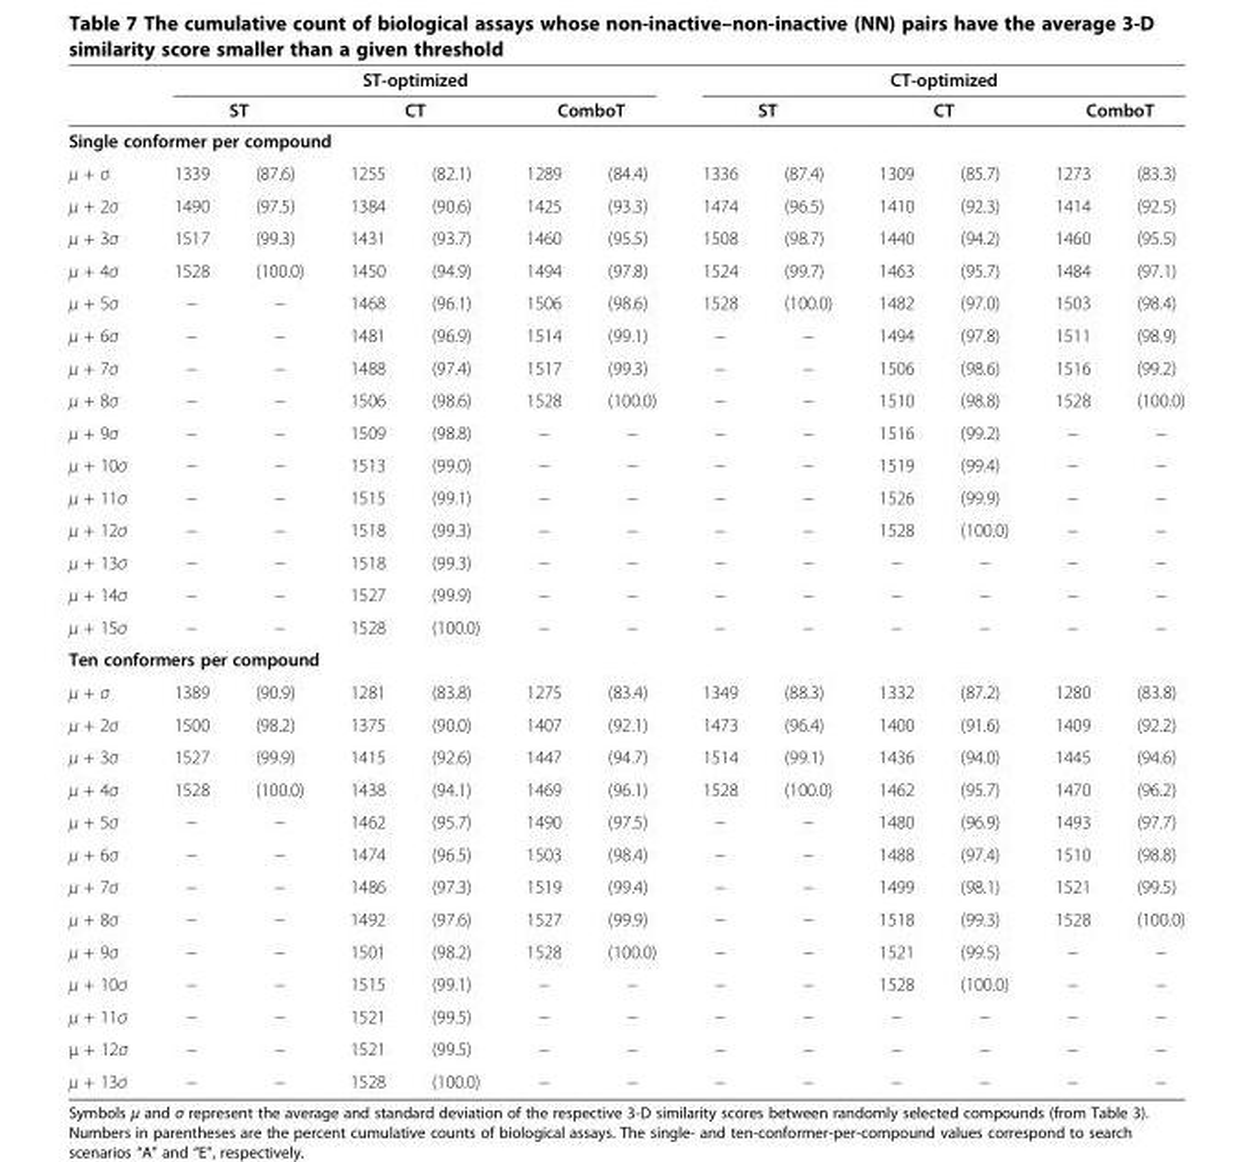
<table><thead><tr><td rowspan="2"></td><td colspan="6">ST-optimized</td><td colspan="6">CT-optimized</td></tr><tr><td colspan="2">ST</td><td colspan="2">CT</td><td colspan="2">ComboT</td><td colspan="2">ST</td><td colspan="2">CT</td><td colspan="2">ComboT</td></tr><tr><td colspan="13">Single conformer per compound</td></tr><tr><td>μ + σ</td><td>1339</td><td>(87.6)</td><td>1255</td><td>(82.1)</td><td>1289</td><td>(84.4)</td><td>1336</td><td>(87.4)</td><td>1309</td><td>(85.7)</td><td>1273</td><td>(83.3)</td></tr></thead><tbody><tr><td>μ + 2σ</td><td>1490</td><td>(97.5)</td><td>1384</td><td>(90.6)</td><td>1425</td><td>(93.3)</td><td>1474</td><td>(96.5)</td><td>1410</td><td>(92.3)</td><td>1414</td><td>(92.5)</td></tr><tr><td>μ + 3σ</td><td>1517</td><td>(99.3)</td><td>1431</td><td>(93.7)</td><td>1460</td><td>(95.5)</td><td>1508</td><td>(98.7)</td><td>1440</td><td>(94.2)</td><td>1460</td><td>(95.5)</td></tr><tr><td>μ + 4σ</td><td>1528</td><td>(100.0)</td><td>1450</td><td>(94.9)</td><td>1494</td><td>(97.8)</td><td>1524</td><td>(99.7)</td><td>1463</td><td>(95.7)</td><td>1484</td><td>(97.1)</td></tr><tr><td>μ + 5σ</td><td>−</td><td>−</td><td>1468</td><td>(96.1)</td><td>1506</td><td>(98.6)</td><td>1528</td><td>(100.0)</td><td>1482</td><td>(97.0)</td><td>1503</td><td>(98.4)</td></tr><tr><td>μ + 6σ</td><td>−</td><td>−</td><td>1481</td><td>(96.9)</td><td>1514</td><td>(99.1)</td><td>−</td><td>−</td><td>1494</td><td>(97.8)</td><td>1511</td><td>(98.9)</td></tr><tr><td>μ + 7σ</td><td>−</td><td>−</td><td>1488</td><td>(97.4)</td><td>1517</td><td>(99.3)</td><td>−</td><td>−</td><td>1506</td><td>(98.6)</td><td>1516</td><td>(99.2)</td></tr><tr><td>μ + 8σ</td><td>−</td><td>−</td><td>1506</td><td>(98.6)</td><td>1528</td><td>(100.0)</td><td>−</td><td>−</td><td>1510</td><td>(98.8)</td><td>1528</td><td>(100.0)</td></tr><tr><td>μ + 9σ</td><td>−</td><td>−</td><td>1509</td><td>(98.8)</td><td>−</td><td>−</td><td>−</td><td>−</td><td>1516</td><td>(99.2)</td><td>−</td><td>−</td></tr><tr><td>μ + 10σ</td><td>−</td><td>−</td><td>1513</td><td>(99.0)</td><td>−</td><td>−</td><td>−</td><td>−</td><td>1519</td><td>(99.4)</td><td>−</td><td>−</td></tr><tr><td>μ + 11σ</td><td>−</td><td>−</td><td>1515</td><td>(99.1)</td><td>−</td><td>−</td><td>−</td><td>−</td><td>1526</td><td>(99.9)</td><td>−</td><td>−</td></tr><tr><td>μ + 12σ</td><td>−</td><td>−</td><td>1518</td><td>(99.3)</td><td>−</td><td>−</td><td>−</td><td>−</td><td>1528</td><td>(100.0)</td><td>−</td><td>−</td></tr><tr><td>μ + 13σ</td><td>−</td><td>−</td><td>1518</td><td>(99.3)</td><td>−</td><td>−</td><td>−</td><td>−</td><td>−</td><td>−</td><td>−</td><td>−</td></tr><tr><td>μ + 14σ</td><td>−</td><td>−</td><td>1527</td><td>(99.9)</td><td>−</td><td>−</td><td>−</td><td>−</td><td>−</td><td>−</td><td>−</td><td>−</td></tr><tr><td>μ + 15σ</td><td>−</td><td>−</td><td>1528</td><td>(100.0)</td><td>−</td><td>−</td><td>−</td><td>−</td><td>−</td><td>−</td><td>−</td><td>−</td></tr><tr><td colspan="13">Ten conformers per compound</td></tr><tr><td>μ + σ</td><td>1389</td><td>(90.9)</td><td>1281</td><td>(83.8)</td><td>1275</td><td>(83.4)</td><td>1349</td><td>(88.3)</td><td>1332</td><td>(87.2)</td><td>1280</td><td>(83.8)</td></tr><tr><td>μ + 2σ</td><td>1500</td><td>(98.2)</td><td>1375</td><td>(90.0)</td><td>1407</td><td>(92.1)</td><td>1473</td><td>(96.4)</td><td>1400</td><td>(91.6)</td><td>1409</td><td>(92.2)</td></tr><tr><td>μ + 3σ</td><td>1527</td><td>(99.9)</td><td>1415</td><td>(92.6)</td><td>1447</td><td>(94.7)</td><td>1514</td><td>(99.1)</td><td>1436</td><td>(94.0)</td><td>1445</td><td>(94.6)</td></tr><tr><td>μ + 4σ</td><td>1528</td><td>(100.0)</td><td>1438</td><td>(94.1)</td><td>1469</td><td>(96.1)</td><td>1528</td><td>(100.0)</td><td>1462</td><td>(95.7)</td><td>1470</td><td>(96.2)</td></tr><tr><td>μ + 5σ</td><td>−</td><td>−</td><td>1462</td><td>(95.7)</td><td>1490</td><td>(97.5)</td><td>−</td><td>−</td><td>1480</td><td>(96.9)</td><td>1493</td><td>(97.7)</td></tr><tr><td>μ + 6σ</td><td>−</td><td>−</td><td>1474</td><td>(96.5)</td><td>1503</td><td>(98.4)</td><td>−</td><td>−</td><td>1488</td><td>(97.4)</td><td>1510</td><td>(98.8)</td></tr><tr><td>μ + 7σ</td><td>−</td><td>−</td><td>1486</td><td>(97.3)</td><td>1519</td><td>(99.4)</td><td>−</td><td>−</td><td>1499</td><td>(98.1)</td><td>1521</td><td>(99.5)</td></tr><tr><td>μ + 8σ</td><td>−</td><td>−</td><td>1492</td><td>(97.6)</td><td>1527</td><td>(99.9)</td><td>−</td><td>−</td><td>1518</td><td>(99.3)</td><td>1528</td><td>(100.0)</td></tr><tr><td>μ + 9σ</td><td>−</td><td>−</td><td>1501</td><td>(98.2)</td><td>1528</td><td>(100.0)</td><td>−</td><td>−</td><td>1521</td><td>(99.5)</td><td>−</td><td>−</td></tr><tr><td>μ + 10σ</td><td>−</td><td>−</td><td>1515</td><td>(99.1)</td><td>−</td><td>−</td><td>−</td><td>−</td><td>1528</td><td>(100.0)</td><td>−</td><td>−</td></tr><tr><td>μ + 11σ</td><td>−</td><td>−</td><td>1521</td><td>(99.5)</td><td>−</td><td>−</td><td>−</td><td>−</td><td>−</td><td>−</td><td>−</td><td>−</td></tr><tr><td>μ + 12σ</td><td>−</td><td>−</td><td>1521</td><td>(99.5)</td><td>−</td><td>−</td><td>−</td><td>−</td><td>−</td><td>−</td><td>−</td><td>−</td></tr><tr><td>μ + 13σ</td><td>−</td><td>−</td><td>1528</td><td>(100.0)</td><td>−</td><td>−</td><td>−</td><td>−</td><td>−</td><td>−</td><td>−</td><td>−</td></tr></tbody></table>